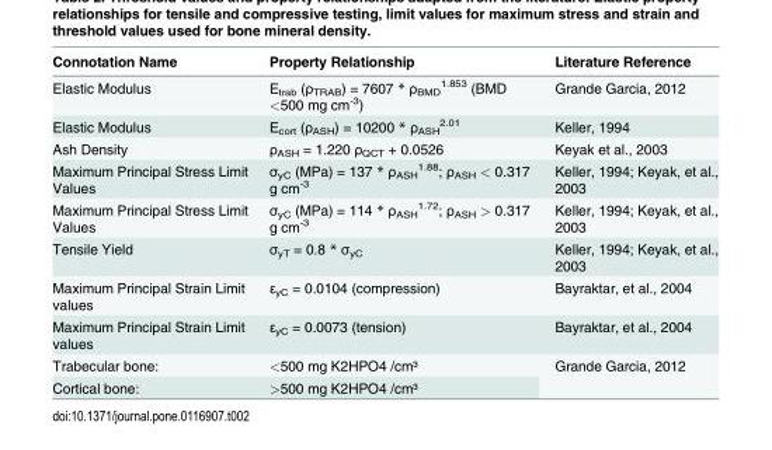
<table><thead><tr><td>Connotation Name</td><td>Property Relationship</td><td>Literature Reference</td></tr></thead><tbody><tr><td>Elastic Modulus</td><td>E<sub>trab</sub> (ρ<sub>TRAB</sub>) = 7607 * ρ<sub>BMD</sub> <sup>1.853</sup> (BMD &lt;500 mg cm<sup>-3</sup>)</td><td>Grande Garcia, 2012</td></tr><tr><td>Elastic Modulus</td><td>E<sub>cort</sub> (ρ<sub>ASH</sub>) = 10200 * ρ<sub>ASH</sub> <sup>2.01</sup></td><td>Keller, 1994</td></tr><tr><td>Ash Density</td><td>ρ<sub>ASH</sub> = 1.220 ρ<sub>QCT</sub> + 0.0526</td><td>Keyak et al., 2003</td></tr><tr><td>Maximum Principal Stress Limit Values</td><td>σ<sub>yC</sub> (MPa) = 137 * ρ<sub>ASH</sub> <sup>1.88</sup>; ρ<sub>ASH</sub> &lt; 0.317 g cm<sup>-3</sup></td><td>Keller, 1994; Keyak, et al., 2003</td></tr><tr><td>Maximum Principal Stress Limit Values</td><td>σ<sub>yC</sub> (MPa) = 114 * ρ<sub>ASH</sub> <sup>1.72</sup>; ρ<sub>ASH</sub> &gt; 0.317 g cm<sup>-3</sup></td><td>Keller, 1994; Keyak, et al., 2003</td></tr><tr><td>Tensile Yield</td><td>σ<sub>yT</sub> = 0.8 * σ<sub>yC</sub></td><td>Keller, 1994; Keyak, et al., 2003</td></tr><tr><td>Maximum Principal Strain Limit values</td><td>ε<sub>yC</sub> = 0.0104 (compression)</td><td>Bayraktar, et al., 2004</td></tr><tr><td>Maximum Principal Strain Limit values</td><td>ε<sub>yC</sub> = 0.0073 (tension)</td><td>Bayraktar, et al., 2004</td></tr><tr><td>Trabecular bone:</td><td>&lt;500 mg K2HPO4 /cm³</td><td rowspan="2">Grande Garcia, 2012</td></tr><tr><td>Cortical bone:</td><td>&gt;500 mg K2HPO4 /cm³</td></tr></tbody></table>